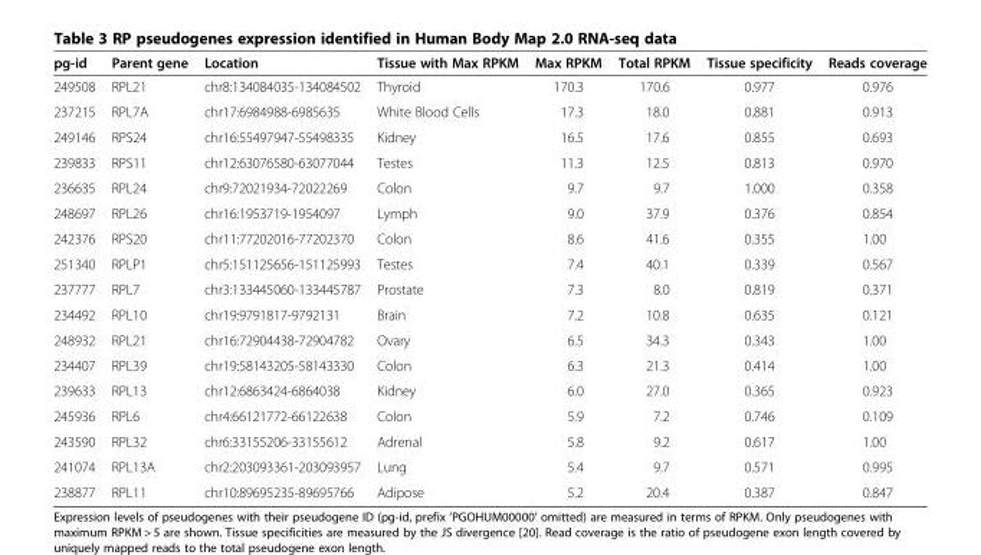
<table><thead><tr><td>pg-id</td><td>Parent gene</td><td>Location</td><td>Tissue with Max RPKM</td><td>Max RPKM</td><td>Total RPKM</td><td>Tissue specificity</td><td>Reads coverage</td></tr></thead><tbody><tr><td>249508</td><td>RPL21</td><td>chr8:134084035-134084502</td><td>Thyroid</td><td>170.3</td><td>170.6</td><td>0.977</td><td>0.976</td></tr><tr><td>237215</td><td>RPL7A</td><td>chr17:6984988-6985635</td><td>White Blood Cells</td><td>17.3</td><td>18.0</td><td>0.881</td><td>0.913</td></tr><tr><td>249146</td><td>RPS24</td><td>chr16:55497947-55498335</td><td>Kidney</td><td>16.5</td><td>17.6</td><td>0.855</td><td>0.693</td></tr><tr><td>239833</td><td>RPS11</td><td>chr12:63076580-63077044</td><td>Testes</td><td>11.3</td><td>12.5</td><td>0.813</td><td>0.970</td></tr><tr><td>236635</td><td>RPL24</td><td>chr9:72021934-72022269</td><td>Colon</td><td>9.7</td><td>9.7</td><td>1.000</td><td>0.358</td></tr><tr><td>248697</td><td>RPL26</td><td>chr16:1953719-1954097</td><td>Lymph</td><td>9.0</td><td>37.9</td><td>0.376</td><td>0.854</td></tr><tr><td>242376</td><td>RPS20</td><td>chr11:77202016-77202370</td><td>Colon</td><td>8.6</td><td>41.6</td><td>0.355</td><td>1.00</td></tr><tr><td>251340</td><td>RPLP1</td><td>chr5:151125656-151125993</td><td>Testes</td><td>7.4</td><td>40.1</td><td>0.339</td><td>0.567</td></tr><tr><td>237777</td><td>RPL7</td><td>chr3:133445060-133445787</td><td>Prostate</td><td>7.3</td><td>8.0</td><td>0.819</td><td>0.371</td></tr><tr><td>234492</td><td>RPL10</td><td>chr19:9791817-9792131</td><td>Brain</td><td>7.2</td><td>10.8</td><td>0.635</td><td>0.121</td></tr><tr><td>248932</td><td>RPL21</td><td>chr16:72904438-72904782</td><td>Ovary</td><td>6.5</td><td>34.3</td><td>0.343</td><td>1.00</td></tr><tr><td>234407</td><td>RPL39</td><td>chr19:58143205-58143330</td><td>Colon</td><td>6.3</td><td>21.3</td><td>0.414</td><td>1.00</td></tr><tr><td>239633</td><td>RPL13</td><td>chr12:6863424-6864038</td><td>Kidney</td><td>6.0</td><td>27.0</td><td>0.365</td><td>0.923</td></tr><tr><td>245936</td><td>RPL6</td><td>chr4:66121772-66122638</td><td>Colon</td><td>5.9</td><td>7.2</td><td>0.746</td><td>0.109</td></tr><tr><td>243590</td><td>RPL32</td><td>chr6:33155206-33155612</td><td>Adrenal</td><td>5.8</td><td>9.2</td><td>0.617</td><td>1.00</td></tr><tr><td>241074</td><td>RPL13A</td><td>chr2:203093361-203093957</td><td>Lung</td><td>5.4</td><td>9.7</td><td>0.571</td><td>0.995</td></tr><tr><td>238877</td><td>RPL11</td><td>chr10:89695235-89695766</td><td>Adipose</td><td>5.2</td><td>20.4</td><td>0.387</td><td>0.847</td></tr></tbody></table>